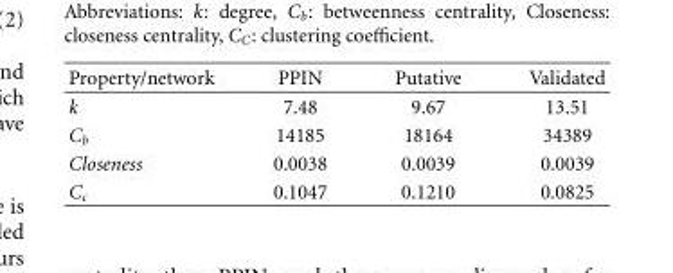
<table><thead><tr><td>Property/network</td><td>PPIN</td><td>Putative</td><td>Validated</td></tr></thead><tbody><tr><td>k</td><td>7.48</td><td>9.67</td><td>13.51</td></tr><tr><td>C<sub>b</sub></td><td>14185</td><td>18164</td><td>34389</td></tr><tr><td>Closeness</td><td>0.0038</td><td>0.0039</td><td>0.0039</td></tr><tr><td>C<sub>c</sub></td><td>0.1047</td><td>0.1210</td><td>0.0825</td></tr></tbody></table>